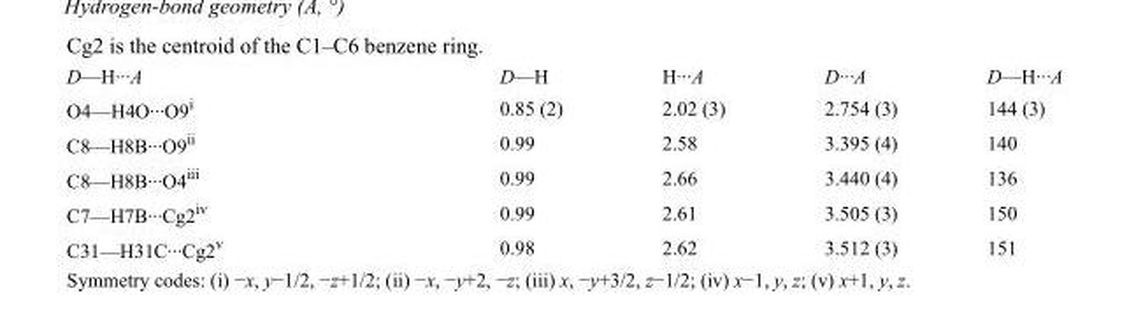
<table><tbody><tr><td>D—H···A</td><td>D—H</td><td>H···A</td><td>D···A</td><td>D—H···A</td></tr><tr><td>O4—H4O···O9<sup>i</sup></td><td>0.85 (2)</td><td>2.02 (3)</td><td>2.754 (3)</td><td>144 (3)</td></tr><tr><td>C8—H8B···O9<sup>ii</sup></td><td>0.99</td><td>2.58</td><td>3.395 (4)</td><td>140</td></tr><tr><td>C8—H8B···O4<sup>iii</sup></td><td>0.99</td><td>2.66</td><td>3.440 (4)</td><td>136</td></tr><tr><td>C7—H7B···Cg2<sup>iv</sup></td><td>0.99</td><td>2.61</td><td>3.505 (3)</td><td>150</td></tr><tr><td>C31—H31C···Cg2<sup>v</sup></td><td>0.98</td><td>2.62</td><td>3.512 (3)</td><td>151</td></tr></tbody></table>